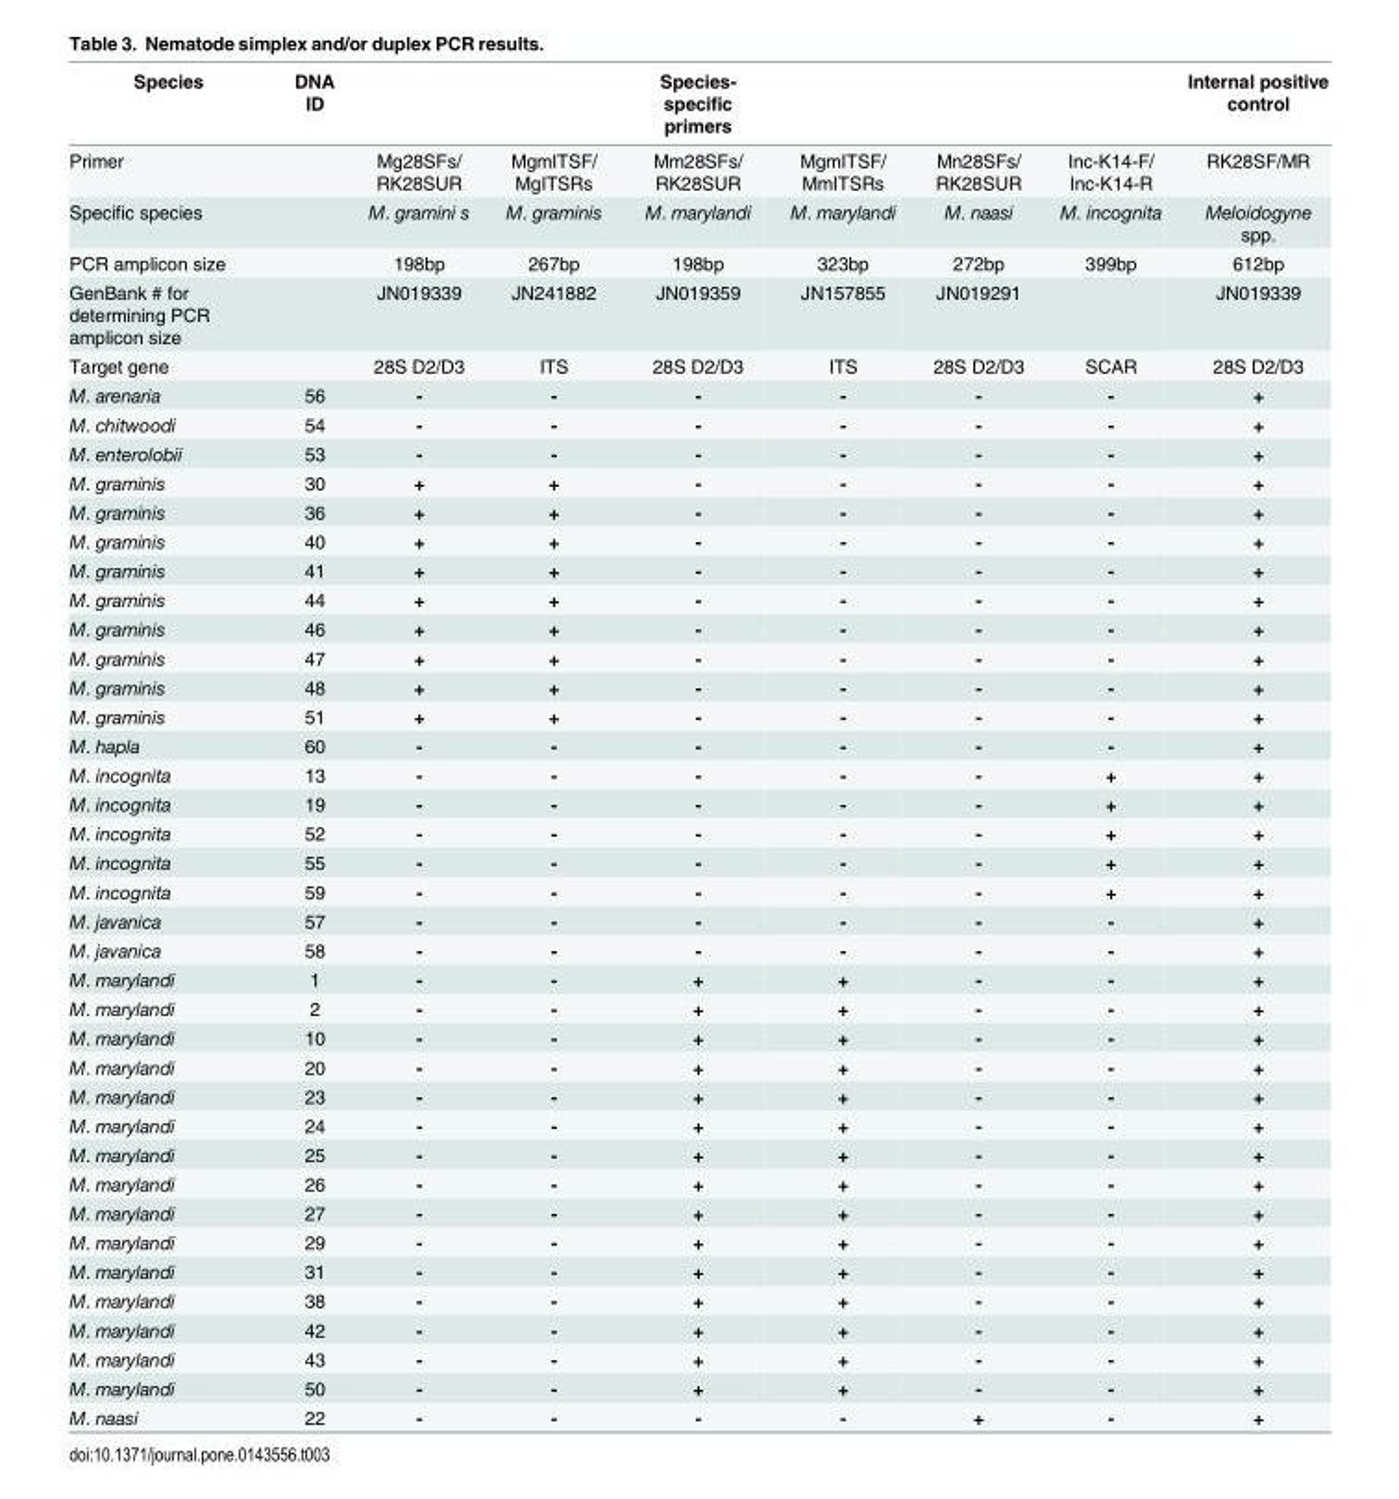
<table><thead><tr><td>Species</td><td>DNA ID</td><td></td><td></td><td>Species- specific primers</td><td></td><td></td><td></td><td>Internal positive control</td></tr></thead><tbody><tr><td>Primer</td><td></td><td>Mg28SFs/ RK28SUR</td><td>MgmITSF/ MgITSRs</td><td>Mm28SFs/ RK28SUR</td><td>MgmITSF/ MmITSRs</td><td>Mn28SFs/ RK28SUR</td><td>Inc-K14-F/ Inc-K14-R</td><td>RK28SF/MR</td></tr><tr><td>Specific species</td><td></td><td>M. gramini s</td><td>M. graminis</td><td>M. marylandi</td><td>M. marylandi</td><td>M. naasi</td><td>M. incognita</td><td>Meloidogyne spp.</td></tr><tr><td>PCR amplicon size</td><td></td><td>198bp</td><td>267bp</td><td>198bp</td><td>323bp</td><td>272bp</td><td>399bp</td><td>612bp</td></tr><tr><td>GenBank # for determining PCR amplicon size</td><td></td><td>JN019339</td><td>JN241882</td><td>JN019359</td><td>JN157855</td><td>JN019291</td><td></td><td>JN019339</td></tr><tr><td>Target gene</td><td></td><td>28S D2/D3</td><td>ITS</td><td>28S D2/D3</td><td>ITS</td><td>28S D2/D3</td><td>SCAR</td><td>28S D2/D3</td></tr><tr><td>M. arenaria</td><td>56</td><td>-</td><td>-</td><td>-</td><td>-</td><td>-</td><td>-</td><td>+</td></tr><tr><td>M. chitwoodi</td><td>54</td><td>-</td><td>-</td><td>-</td><td>-</td><td>-</td><td>-</td><td>+</td></tr><tr><td>M. enterolobii</td><td>53</td><td>-</td><td>-</td><td>-</td><td>-</td><td>-</td><td>-</td><td>+</td></tr><tr><td>M. graminis</td><td>30</td><td>+</td><td>+</td><td>-</td><td>-</td><td>-</td><td>-</td><td>+</td></tr><tr><td>M. graminis</td><td>36</td><td>+</td><td>+</td><td>-</td><td>-</td><td>-</td><td>-</td><td>+</td></tr><tr><td>M. graminis</td><td>40</td><td>+</td><td>+</td><td>-</td><td>-</td><td>-</td><td>-</td><td>+</td></tr><tr><td>M. graminis</td><td>41</td><td>+</td><td>+</td><td>-</td><td>-</td><td>-</td><td>-</td><td>+</td></tr><tr><td>M. graminis</td><td>44</td><td>+</td><td>+</td><td>-</td><td>-</td><td>-</td><td>-</td><td>+</td></tr><tr><td>M. graminis</td><td>46</td><td>+</td><td>+</td><td>-</td><td>-</td><td>-</td><td>-</td><td>+</td></tr><tr><td>M. graminis</td><td>47</td><td>+</td><td>+</td><td>-</td><td>-</td><td>-</td><td>-</td><td>+</td></tr><tr><td>M. graminis</td><td>48</td><td>+</td><td>+</td><td>-</td><td>-</td><td>-</td><td>-</td><td>+</td></tr><tr><td>M. graminis</td><td>51</td><td>+</td><td>+</td><td>-</td><td>-</td><td>-</td><td>-</td><td>+</td></tr><tr><td>M. hapla</td><td>60</td><td>-</td><td>-</td><td>-</td><td>-</td><td>-</td><td>-</td><td>+</td></tr><tr><td>M. incognita</td><td>13</td><td>-</td><td>-</td><td>-</td><td>-</td><td>-</td><td>+</td><td>+</td></tr><tr><td>M. incognita</td><td>19</td><td>-</td><td>-</td><td>-</td><td>-</td><td>-</td><td>+</td><td>+</td></tr><tr><td>M. incognita</td><td>52</td><td>-</td><td>-</td><td>-</td><td>-</td><td>-</td><td>+</td><td>+</td></tr><tr><td>M. incognita</td><td>55</td><td>-</td><td>-</td><td>-</td><td>-</td><td>-</td><td>+</td><td>+</td></tr><tr><td>M. incognita</td><td>59</td><td>-</td><td>-</td><td>-</td><td>-</td><td>-</td><td>+</td><td>+</td></tr><tr><td>M. javanica</td><td>57</td><td>-</td><td>-</td><td>-</td><td>-</td><td>-</td><td>-</td><td>+</td></tr><tr><td>M. javanica</td><td>58</td><td>-</td><td>-</td><td>-</td><td>-</td><td>-</td><td>-</td><td>+</td></tr><tr><td>M. marylandi</td><td>1</td><td>-</td><td>-</td><td>+</td><td>+</td><td>-</td><td>-</td><td>+</td></tr><tr><td>M. marylandi</td><td>2</td><td>-</td><td>-</td><td>+</td><td>+</td><td>-</td><td>-</td><td>+</td></tr><tr><td>M. marylandi</td><td>10</td><td>-</td><td>-</td><td>+</td><td>+</td><td>-</td><td>-</td><td>+</td></tr><tr><td>M. marylandi</td><td>20</td><td>-</td><td>-</td><td>+</td><td>+</td><td>-</td><td>-</td><td>+</td></tr><tr><td>M. marylandi</td><td>23</td><td>-</td><td>-</td><td>+</td><td>+</td><td>-</td><td>-</td><td>+</td></tr><tr><td>M. marylandi</td><td>24</td><td>-</td><td>-</td><td>+</td><td>+</td><td>-</td><td>-</td><td>+</td></tr><tr><td>M. marylandi</td><td>25</td><td>-</td><td>-</td><td>+</td><td>+</td><td>-</td><td>-</td><td>+</td></tr><tr><td>M. marylandi</td><td>26</td><td>-</td><td>-</td><td>+</td><td>+</td><td>-</td><td>-</td><td>+</td></tr><tr><td>M. marylandi</td><td>27</td><td>-</td><td>-</td><td>+</td><td>+</td><td>-</td><td>-</td><td>+</td></tr><tr><td>M. marylandi</td><td>29</td><td>-</td><td>-</td><td>+</td><td>+</td><td>-</td><td>-</td><td>+</td></tr><tr><td>M. marylandi</td><td>31</td><td>-</td><td>-</td><td>+</td><td>+</td><td>-</td><td>-</td><td>+</td></tr><tr><td>M. marylandi</td><td>38</td><td>-</td><td>-</td><td>+</td><td>+</td><td>-</td><td>-</td><td>+</td></tr><tr><td>M. marylandi</td><td>42</td><td>-</td><td>-</td><td>+</td><td>+</td><td>-</td><td>-</td><td>+</td></tr><tr><td>M. marylandi</td><td>43</td><td>-</td><td>-</td><td>+</td><td>+</td><td>-</td><td>-</td><td>+</td></tr><tr><td>M. marylandi</td><td>50</td><td>-</td><td>-</td><td>+</td><td>+</td><td>-</td><td>-</td><td>+</td></tr><tr><td>M. naasi</td><td>22</td><td>-</td><td>-</td><td>-</td><td>-</td><td>+</td><td>-</td><td>+</td></tr></tbody></table>